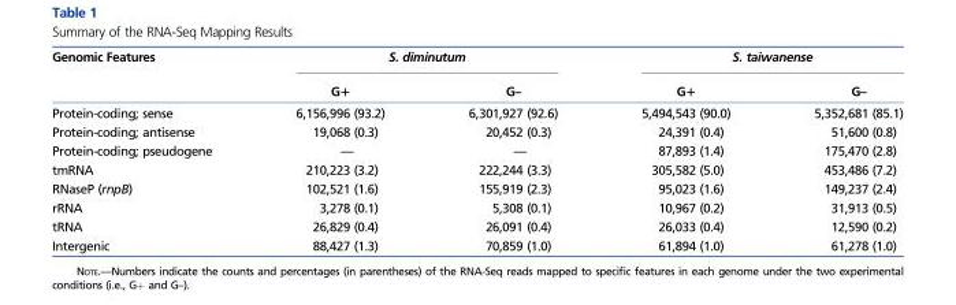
<table><thead><tr><td rowspan="2">Genomic Features</td><td colspan="2">S. diminutum</td><td colspan="2">S. taiwanense</td></tr><tr><td>G+</td><td>G–</td><td>G+</td><td>G–</td></tr></thead><tbody><tr><td>Protein-coding; sense</td><td>6,156,996 (93.2)</td><td>6,301,927 (92.6)</td><td>5,494,543 (90.0)</td><td>5,352,681 (85.1)</td></tr><tr><td>Protein-coding; antisense</td><td>19,068 (0.3)</td><td>20,452 (0.3)</td><td>24,391 (0.4)</td><td>51,600 (0.8)</td></tr><tr><td>Protein-coding; pseudogene</td><td>—</td><td>—</td><td>87,893 (1.4)</td><td>175,470 (2.8)</td></tr><tr><td>tmRNA</td><td>210,223 (3.2)</td><td>222,244 (3.3)</td><td>305,582 (5.0)</td><td>453,486 (7.2)</td></tr><tr><td>RNaseP (rnpB)</td><td>102,521 (1.6)</td><td>155,919 (2.3)</td><td>95,023 (1.6)</td><td>149,237 (2.4)</td></tr><tr><td>rRNA</td><td>3,278 (0.1)</td><td>5,308 (0.1)</td><td>10,967 (0.2)</td><td>31,913 (0.5)</td></tr><tr><td>tRNA</td><td>26,829 (0.4)</td><td>26,091 (0.4)</td><td>26,033 (0.4)</td><td>12,590 (0.2)</td></tr><tr><td>Intergenic</td><td>88,427 (1.3)</td><td>70,859 (1.0)</td><td>61,894 (1.0)</td><td>61,278 (1.0)</td></tr></tbody></table>